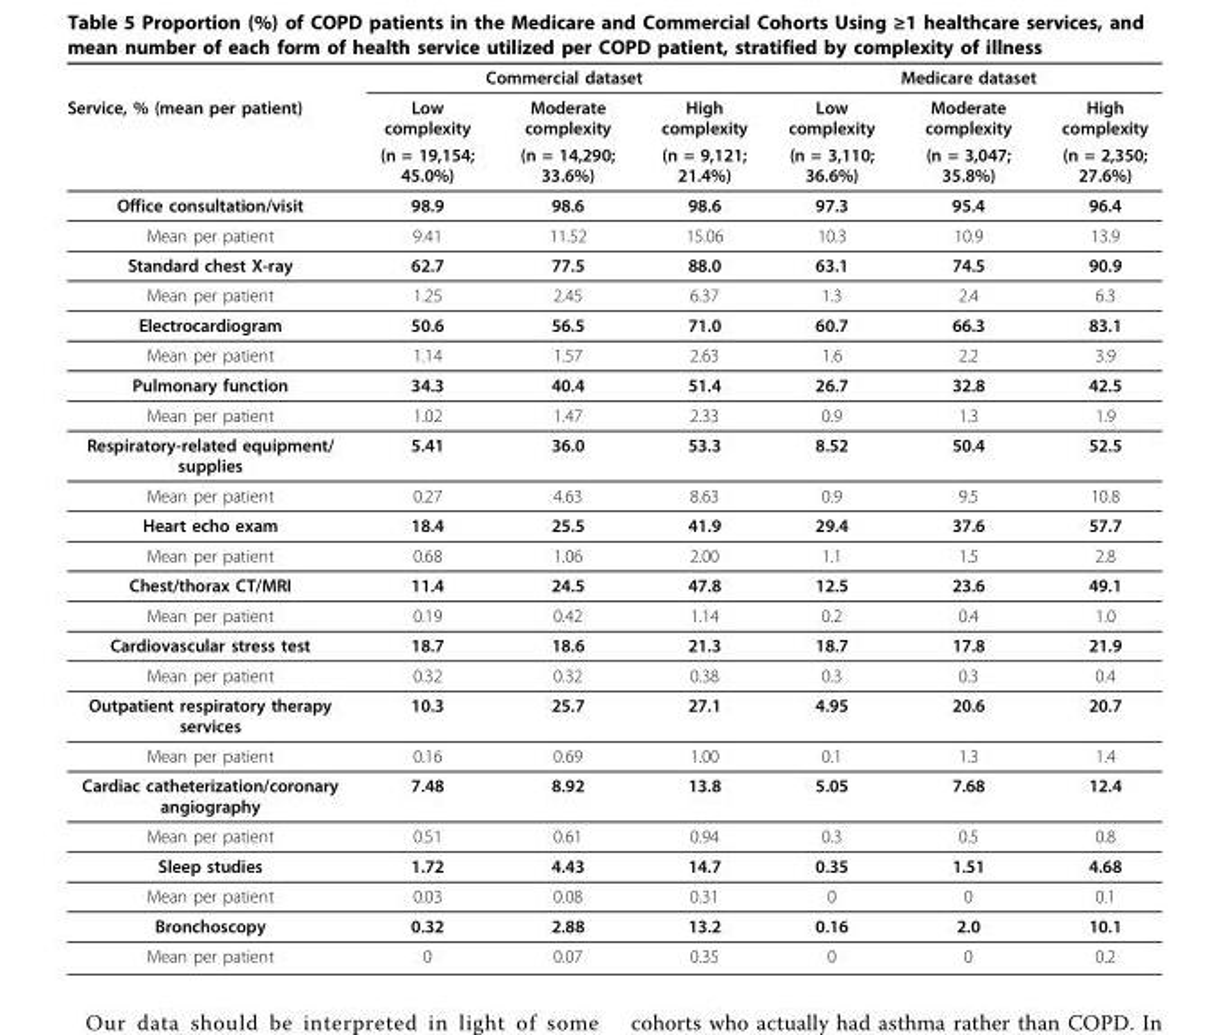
<table><thead><tr><td rowspan="3">Service, % (mean per patient)</td><td colspan="3">Commercial dataset</td><td colspan="3">Medicare dataset</td></tr><tr><td rowspan="2">Low complexity (n = 19,154; 45.0%)</td><td rowspan="2">Moderate complexity (n = 14,290; 33.6%)</td><td rowspan="2">High complexity (n = 9,121; 21.4%)</td><td rowspan="2">Low complexity (n = 3,110; 36.6%)</td><td rowspan="2">Moderate complexity (n = 3,047; 35.8%)</td><td rowspan="2">High complexity (n = 2,350; 27.6%)</td></tr><tr></tr></thead><tbody><tr><td>Office consultation/visit</td><td>98.9</td><td>98.6</td><td>98.6</td><td>97.3</td><td>95.4</td><td>96.4</td></tr><tr><td>Mean per patient</td><td>9.41</td><td>11.52</td><td>15.06</td><td>10.3</td><td>10.9</td><td>13.9</td></tr><tr><td>Standard chest X-ray</td><td>62.7</td><td>77.5</td><td>88.0</td><td>63.1</td><td>74.5</td><td>90.9</td></tr><tr><td>Mean per patient</td><td>1.25</td><td>2.45</td><td>6.37</td><td>1.3</td><td>2.4</td><td>6.3</td></tr><tr><td>Electrocardiogram</td><td>50.6</td><td>56.5</td><td>71.0</td><td>60.7</td><td>66.3</td><td>83.1</td></tr><tr><td>Mean per patient</td><td>1.14</td><td>1.57</td><td>2.63</td><td>1.6</td><td>2.2</td><td>3.9</td></tr><tr><td>Pulmonary function</td><td>34.3</td><td>40.4</td><td>51.4</td><td>26.7</td><td>32.8</td><td>42.5</td></tr><tr><td>Mean per patient</td><td>1.02</td><td>1.47</td><td>2.33</td><td>0.9</td><td>1.3</td><td>1.9</td></tr><tr><td>Respiratory-related equipment/ supplies</td><td>5.41</td><td>36.0</td><td>53.3</td><td>8.52</td><td>50.4</td><td>52.5</td></tr><tr><td>Mean per patient</td><td>0.27</td><td>4.63</td><td>8.63</td><td>0.9</td><td>9.5</td><td>10.8</td></tr><tr><td>Heart echo exam</td><td>18.4</td><td>25.5</td><td>41.9</td><td>29.4</td><td>37.6</td><td>57.7</td></tr><tr><td>Mean per patient</td><td>0.68</td><td>1.06</td><td>2.00</td><td>1.1</td><td>1.5</td><td>2.8</td></tr><tr><td>Chest/thorax CT/MRI</td><td>11.4</td><td>24.5</td><td>47.8</td><td>12.5</td><td>23.6</td><td>49.1</td></tr><tr><td>Mean per patient</td><td>0.19</td><td>0.42</td><td>1.14</td><td>0.2</td><td>0.4</td><td>1.0</td></tr><tr><td>Cardiovascular stress test</td><td>18.7</td><td>18.6</td><td>21.3</td><td>18.7</td><td>17.8</td><td>21.9</td></tr><tr><td>Mean per patient</td><td>0.32</td><td>0.32</td><td>0.38</td><td>0.3</td><td>0.3</td><td>0.4</td></tr><tr><td>Outpatient respiratory therapy services</td><td>10.3</td><td>25.7</td><td>27.1</td><td>4.95</td><td>20.6</td><td>20.7</td></tr><tr><td>Mean per patient</td><td>0.16</td><td>0.69</td><td>1.00</td><td>0.1</td><td>1.3</td><td>1.4</td></tr><tr><td>Cardiac catheterization/coronary angiography</td><td>7.48</td><td>8.92</td><td>13.8</td><td>5.05</td><td>7.68</td><td>12.4</td></tr><tr><td>Mean per patient</td><td>0.51</td><td>0.61</td><td>0.94</td><td>0.3</td><td>0.5</td><td>0.8</td></tr><tr><td>Sleep studies</td><td>1.72</td><td>4.43</td><td>14.7</td><td>0.35</td><td>1.51</td><td>4.68</td></tr><tr><td>Mean per patient</td><td>0.03</td><td>0.08</td><td>0.31</td><td>0</td><td>0</td><td>0.1</td></tr><tr><td>Bronchoscopy</td><td>0.32</td><td>2.88</td><td>13.2</td><td>0.16</td><td>2.0</td><td>10.1</td></tr><tr><td>Mean per patient</td><td>0</td><td>0.07</td><td>0.35</td><td>0</td><td>0</td><td>0.2</td></tr></tbody></table>